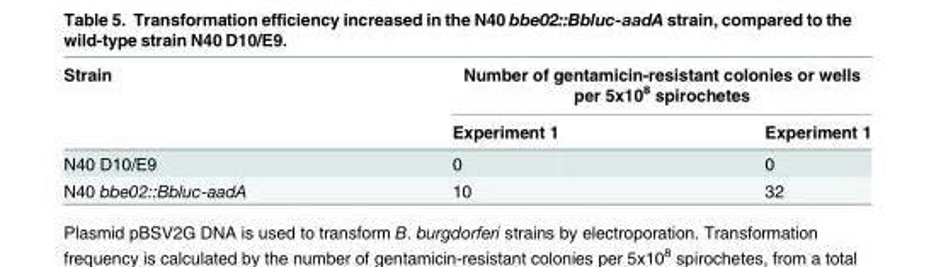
<table><thead><tr><td rowspan="2">Strain</td><td colspan="2">Number of gentamicin-resistant colonies or wells per 5x10<sup>8</sup> spirochetes</td></tr><tr><td>Experiment 1</td><td>Experiment 1</td></tr></thead><tbody><tr><td>N40 D10/E9</td><td>0</td><td>0</td></tr><tr><td>N40 bbe02::Bbluc-aadA</td><td>10</td><td>32</td></tr></tbody></table>